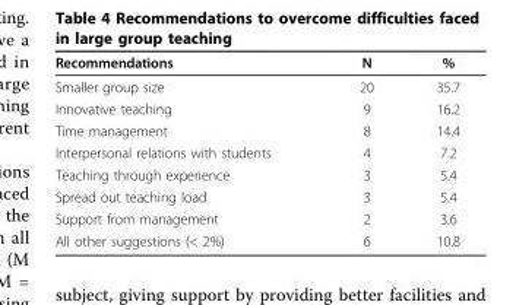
<table><thead><tr><td>Recommendations</td><td>N</td><td>%</td></tr></thead><tbody><tr><td>Smaller group size</td><td>20</td><td>35.7</td></tr><tr><td>Innovative teaching</td><td>9</td><td>16.2</td></tr><tr><td>Time management</td><td>8</td><td>14.4</td></tr><tr><td>Interpersonal relations with students</td><td>4</td><td>7.2</td></tr><tr><td>Teaching through experience</td><td>3</td><td>5.4</td></tr><tr><td>Spread out teaching load</td><td>3</td><td>5.4</td></tr><tr><td>Support from management</td><td>2</td><td>3.6</td></tr><tr><td>All other suggestions (&lt; 2%)</td><td>6</td><td>10.8</td></tr></tbody></table>